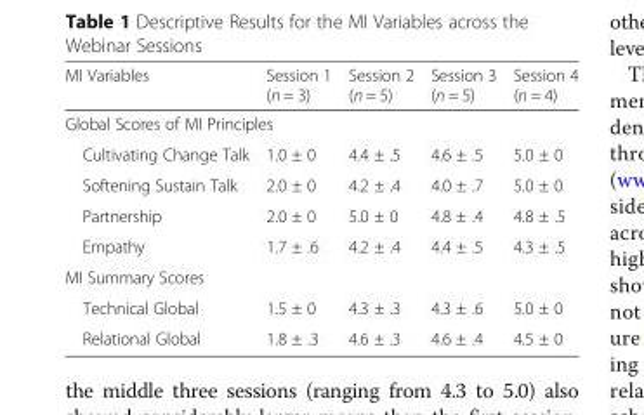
<table><thead><tr><td>MI Variables</td><td>Session 1 (n = 3)</td><td>Session 2 (n = 5)</td><td>Session 3 (n = 5)</td><td>Session 4 (n = 4)</td></tr></thead><tbody><tr><td colspan="5">Global Scores of MI Principles</td></tr><tr><td>Cultivating Change Talk</td><td>1.0 ± 0</td><td>4.4 ± .5</td><td>4.6 ± .5</td><td>5.0 ± 0</td></tr><tr><td>Softening Sustain Talk</td><td>2.0 ± 0</td><td>4.2 ± .4</td><td>4.0 ± .7</td><td>5.0 ± 0</td></tr><tr><td>Partnership</td><td>2.0 ± 0</td><td>5.0 ± 0</td><td>4.8 ± .4</td><td>4.8 ± .5</td></tr><tr><td>Empathy</td><td>1.7 ± .6</td><td>4.2 ± .4</td><td>4.4 ± .5</td><td>4.3 ± .5</td></tr><tr><td colspan="5">MI Summary Scores</td></tr><tr><td>Technical Global</td><td>1.5 ± 0</td><td>4.3 ± .3</td><td>4.3 ± .6</td><td>5.0 ± 0</td></tr><tr><td>Relational Global</td><td>1.8 ± .3</td><td>4.6 ± .3</td><td>4.6 ± .4</td><td>4.5 ± 0</td></tr></tbody></table>